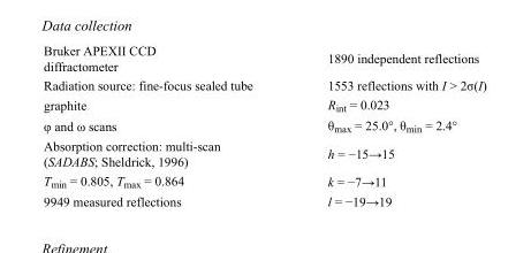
<table><tbody><tr><td>Bruker APEXII CCD diffractometer</td><td>1890 independent reflections</td></tr><tr><td>Radiation source: fine-focus sealed tube</td><td>1553 reflections with I &gt; 2σ(I)</td></tr><tr><td>graphite</td><td>R<sub>int</sub> = 0.023</td></tr><tr><td>φ and ω scans</td><td>θ<sub>max</sub> = 25.0°, θ<sub>min</sub> = 2.4°</td></tr><tr><td>Absorption correction: multi-scan (SADABS; Sheldrick, 1996)</td><td>h = −15→15</td></tr><tr><td>T<sub>min</sub> = 0.805, T<sub>max</sub> = 0.864</td><td>k = −7→11</td></tr><tr><td>9949 measured reflections</td><td>l = −19→19</td></tr></tbody></table>